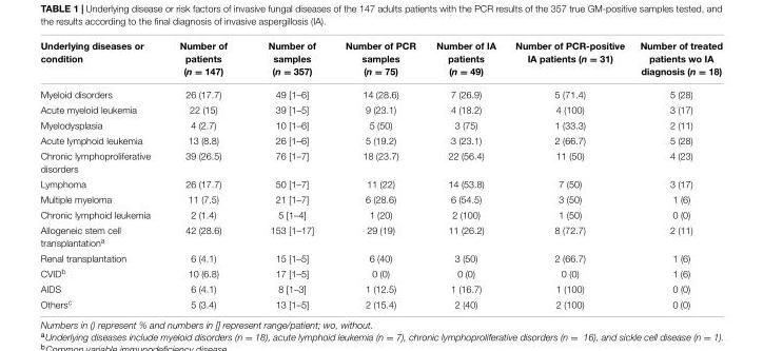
<table><thead><tr><td>Underlying diseases or condition</td><td>Number of patients (n = 147)</td><td>Number of samples (n = 357)</td><td>Number of PCR samples (n = 75)</td><td>Number of IA patients (n = 49)</td><td>Number of PCR-positive IA patients (n = 31)</td><td>Number of treated patients wo IA diagnosis (n = 18)</td></tr></thead><tbody><tr><td>Myeloid disorders</td><td>26 (17.7)</td><td>49 [1–6]</td><td>14 (28.6)</td><td>7 (26.9)</td><td>5 (71.4)</td><td>5 (28)</td></tr><tr><td>Acute myeloid leukemia</td><td>22 (15)</td><td>39 [1–5]</td><td>9 (23.1)</td><td>4 (18.2)</td><td>4 (100)</td><td>3 (17)</td></tr><tr><td>Myelodysplasia</td><td>4 (2.7)</td><td>10 [1–6]</td><td>5 (50)</td><td>3 (75)</td><td>1 (33.3)</td><td>2 (11)</td></tr><tr><td>Acute lymphoid leukemia</td><td>13 (8.8)</td><td>26 [1–6]</td><td>5 (19.2)</td><td>3 (23.1)</td><td>2 (66.7)</td><td>5 (28)</td></tr><tr><td>Chronic lymphoproliferative disorders</td><td>39 (26.5)</td><td>76 [1–7]</td><td>18 (23.7)</td><td>22 (56.4)</td><td>11 (50)</td><td>4 (23)</td></tr><tr><td>Lymphoma</td><td>26 (17.7)</td><td>50 [1–7]</td><td>11 (22)</td><td>14 (53.8)</td><td>7 (50)</td><td>3 (17)</td></tr><tr><td>Multiple myeloma</td><td>11 (7.5)</td><td>21 [1–7]</td><td>6 (28.6)</td><td>6 (54.5)</td><td>3 (50)</td><td>1 (6)</td></tr><tr><td>Chronic lymphoid leukemia</td><td>2 (1.4)</td><td>5 [1–4]</td><td>1 (20)</td><td>2 (100)</td><td>1 (50)</td><td>0 (0)</td></tr><tr><td>Allogeneic stem cell transplantation<sup>a</sup></td><td>42 (28.6)</td><td>153 [1–17]</td><td>29 (19)</td><td>11 (26.2)</td><td>8 (72.7)</td><td>2 (11)</td></tr><tr><td>Renal transplantation</td><td>6 (4.1)</td><td>15 [1–5]</td><td>6 (40)</td><td>3 (50)</td><td>2 (66.7)</td><td>1 (6)</td></tr><tr><td>CVID<sup>b</sup></td><td>10 (6.8)</td><td>17 [1–5]</td><td>0 (0)</td><td>0 (0)</td><td>0 (0)</td><td>1 (6)</td></tr><tr><td>AIDS</td><td>6 (4.1)</td><td>8 [1–3]</td><td>1 (12.5)</td><td>1 (16.7)</td><td>1 (100)</td><td>0 (0)</td></tr><tr><td>Others<sup>c</sup></td><td>5 (3.4)</td><td>13 [1–5]</td><td>2 (15.4)</td><td>2 (40)</td><td>2 (100)</td><td>0 (0)</td></tr></tbody></table>